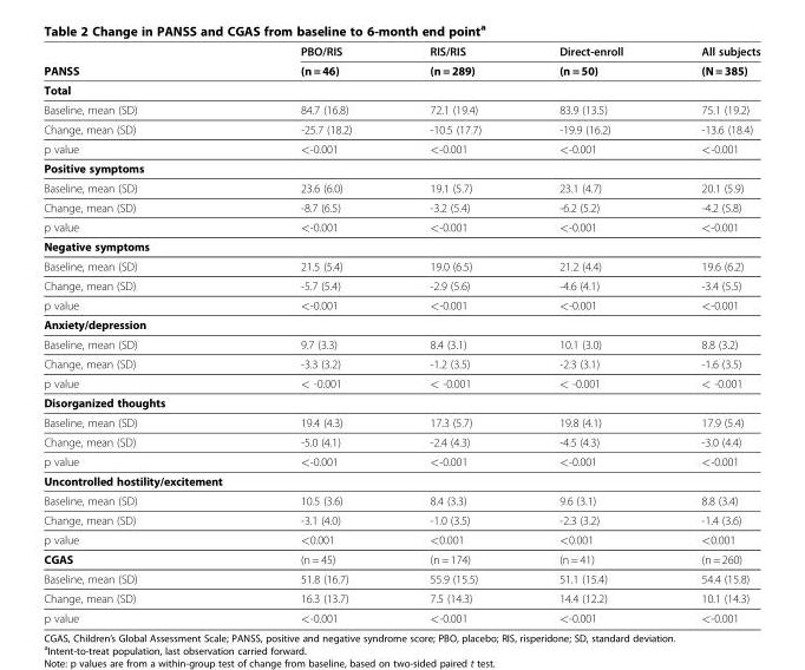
<table><thead><tr><td></td><td>PBO/RIS</td><td>RIS/RIS</td><td>Direct-enroll</td><td>All subjects</td></tr></thead><tbody><tr><td>PANSS</td><td>(n = 46)</td><td>(n = 289)</td><td>(n = 50)</td><td>(N = 385)</td></tr><tr><td colspan="5">Total</td></tr><tr><td>Baseline, mean (SD)</td><td>84.7 (16.8)</td><td>72.1 (19.4)</td><td>83.9 (13.5)</td><td>75.1 (19.2)</td></tr><tr><td>Change, mean (SD)</td><td>-25.7 (18.2)</td><td>-10.5 (17.7)</td><td>-19.9 (16.2)</td><td>-13.6 (18.4)</td></tr><tr><td>p value</td><td>&lt;-0.001</td><td>&lt;-0.001</td><td>&lt;-0.001</td><td>&lt;-0.001</td></tr><tr><td colspan="5">Positive symptoms</td></tr><tr><td>Baseline, mean (SD)</td><td>23.6 (6.0)</td><td>19.1 (5.7)</td><td>23.1 (4.7)</td><td>20.1 (5.9)</td></tr><tr><td>Change, mean (SD)</td><td>-8.7 (6.5)</td><td>-3.2 (5.4)</td><td>-6.2 (5.2)</td><td>-4.2 (5.8)</td></tr><tr><td>p value</td><td>&lt;-0.001</td><td>&lt;-0.001</td><td>&lt;-0.001</td><td>&lt;-0.001</td></tr><tr><td colspan="5">Negative symptoms</td></tr><tr><td>Baseline, mean (SD)</td><td>21.5 (5.4)</td><td>19.0 (6.5)</td><td>21.2 (4.4)</td><td>19.6 (6.2)</td></tr><tr><td>Change, mean (SD)</td><td>-5.7 (5.4)</td><td>-2.9 (5.6)</td><td>-4.6 (4.1)</td><td>-3.4 (5.5)</td></tr><tr><td>p value</td><td>&lt;-0.001</td><td>&lt;-0.001</td><td>&lt;-0.001</td><td>&lt;-0.001</td></tr><tr><td colspan="5">Anxiety/depression</td></tr><tr><td>Baseline, mean (SD)</td><td>9.7 (3.3)</td><td>8.4 (3.1)</td><td>10.1 (3.0)</td><td>8.8 (3.2)</td></tr><tr><td>Change, mean (SD)</td><td>-3.3 (3.2)</td><td>-1.2 (3.5)</td><td>-2.3 (3.1)</td><td>-1.6 (3.5)</td></tr><tr><td>p value</td><td>&lt; -0.001</td><td>&lt; -0.001</td><td>&lt; -0.001</td><td>&lt; -0.001</td></tr><tr><td colspan="5">Disorganized thoughts</td></tr><tr><td>Baseline, mean (SD)</td><td>19.4 (4.3)</td><td>17.3 (5.7)</td><td>19.8 (4.1)</td><td>17.9 (5.4)</td></tr><tr><td>Change, mean (SD)</td><td>-5.0 (4.1)</td><td>-2.4 (4.3)</td><td>-4.5 (4.3)</td><td>-3.0 (4.4)</td></tr><tr><td>p value</td><td>&lt;-0.001</td><td>&lt;-0.001</td><td>&lt;-0.001</td><td>&lt;-0.001</td></tr><tr><td colspan="5">Uncontrolled hostility/excitement</td></tr><tr><td>Baseline, mean (SD)</td><td>10.5 (3.6)</td><td>8.4 (3.3)</td><td>9.6 (3.1)</td><td>8.8 (3.4)</td></tr><tr><td>Change, mean (SD)</td><td>-3.1 (4.0)</td><td>-1.0 (3.5)</td><td>-2.3 (3.2)</td><td>-1.4 (3.6)</td></tr><tr><td>p value</td><td>&lt;0.001</td><td>&lt;0.001</td><td>&lt;0.001</td><td>&lt;0.001</td></tr><tr><td>CGAS</td><td>(n = 45)</td><td>(n = 174)</td><td>(n = 41)</td><td>(n = 260)</td></tr><tr><td>Baseline, mean (SD)</td><td>51.8 (16.7)</td><td>55.9 (15.5)</td><td>51.1 (15.4)</td><td>54.4 (15.8)</td></tr><tr><td>Change, mean (SD)</td><td>16.3 (13.7)</td><td>7.5 (14.3)</td><td>14.4 (12.2)</td><td>10.1 (14.3)</td></tr><tr><td>p value</td><td>&lt;-0.001</td><td>&lt;-0.001</td><td>&lt;-0.001</td><td>&lt;-0.001</td></tr></tbody></table>